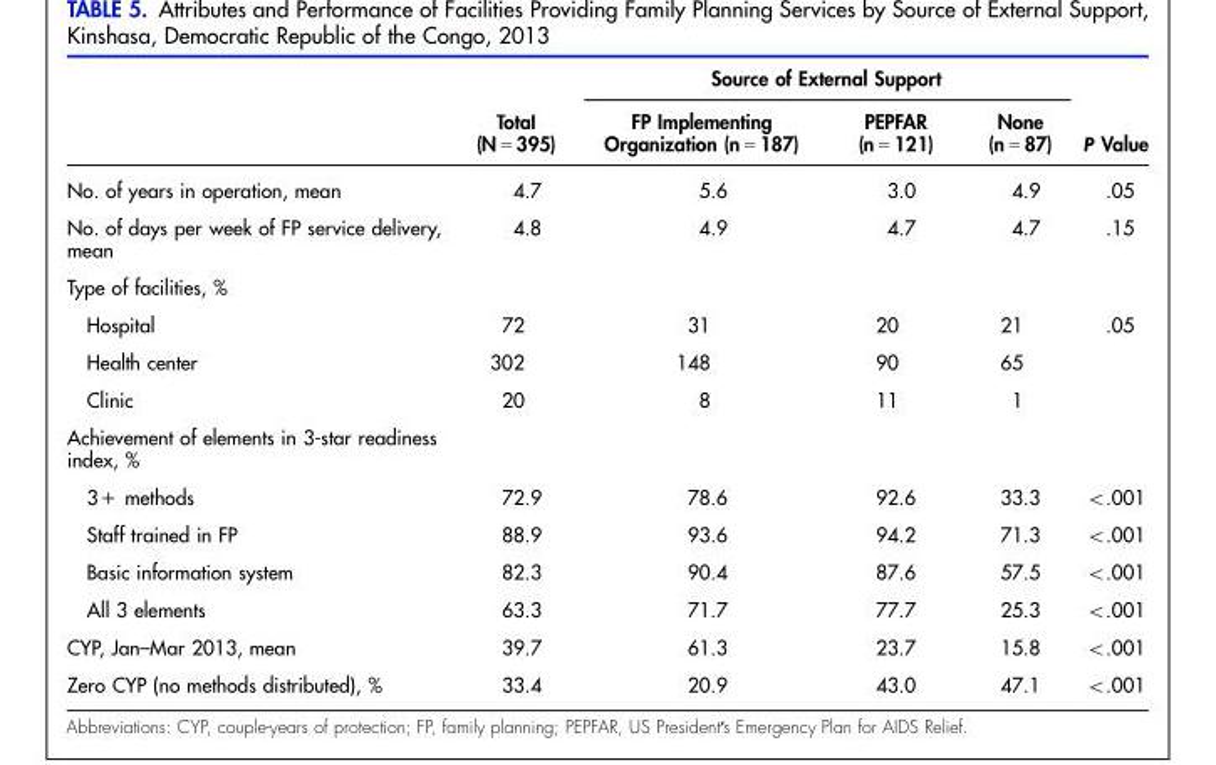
<table><thead><tr><td rowspan="2"></td><td rowspan="2">Total (N = 395)</td><td colspan="3">Source of External Support</td><td rowspan="2">P Value</td></tr><tr><td>FP Implementing Organization (n = 187)</td><td>PEPFAR (n = 121)</td><td>None (n = 87)</td></tr></thead><tbody><tr><td>No. of years in operation, mean</td><td>4.7</td><td>5.6</td><td>3.0</td><td>4.9</td><td>.05</td></tr><tr><td>No. of days per week of FP service delivery, mean</td><td>4.8</td><td>4.9</td><td>4.7</td><td>4.7</td><td>.15</td></tr><tr><td colspan="6">Type of facilities, %</td></tr><tr><td>Hospital</td><td>72</td><td>31</td><td>20</td><td>21</td><td>.05</td></tr><tr><td>Health center</td><td>302</td><td>148</td><td>90</td><td>65</td><td></td></tr><tr><td>Clinic</td><td>20</td><td>8</td><td>11</td><td>1</td><td></td></tr><tr><td colspan="6">Achievement of elements in 3-star readiness index, %</td></tr><tr><td>3+ methods</td><td>72.9</td><td>78.6</td><td>92.6</td><td>33.3</td><td>&lt;.001</td></tr><tr><td>Staff trained in FP</td><td>88.9</td><td>93.6</td><td>94.2</td><td>71.3</td><td>&lt;.001</td></tr><tr><td>Basic information system</td><td>82.3</td><td>90.4</td><td>87.6</td><td>57.5</td><td>&lt;.001</td></tr><tr><td>All 3 elements</td><td>63.3</td><td>71.7</td><td>77.7</td><td>25.3</td><td>&lt;.001</td></tr><tr><td>CYP, Jan–Mar 2013, mean</td><td>39.7</td><td>61.3</td><td>23.7</td><td>15.8</td><td>&lt;.001</td></tr><tr><td>Zero CYP (no methods distributed), %</td><td>33.4</td><td>20.9</td><td>43.0</td><td>47.1</td><td>&lt;.001</td></tr></tbody></table>